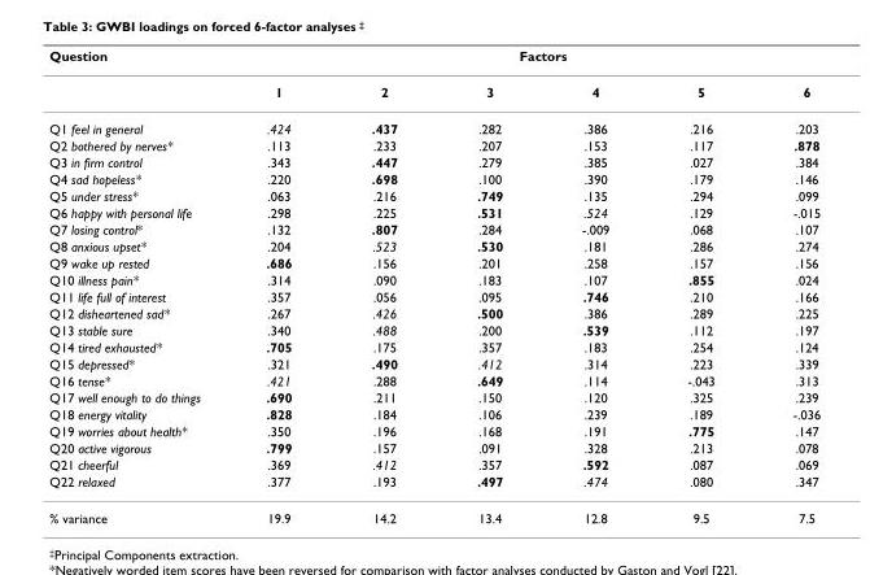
<table><thead><tr><td rowspan="2">Question</td><td colspan="6">Factors</td></tr><tr><td>1</td><td>2</td><td>3</td><td>4</td><td>5</td><td>6</td></tr></thead><tbody><tr><td>Q1 feel in general</td><td>.424</td><td>.437</td><td>.282</td><td>.386</td><td>.216</td><td>.203</td></tr><tr><td>Q2 bothered by nerves*</td><td>.113</td><td>.233</td><td>.207</td><td>.153</td><td>.117</td><td>.878</td></tr><tr><td>Q3 in firm control</td><td>.343</td><td>.447</td><td>.279</td><td>.385</td><td>.027</td><td>.384</td></tr><tr><td>Q4 sad hopeless*</td><td>.220</td><td>.698</td><td>.100</td><td>.390</td><td>.179</td><td>.146</td></tr><tr><td>Q5 under stress*</td><td>.063</td><td>.216</td><td>.749</td><td>.135</td><td>.294</td><td>.099</td></tr><tr><td>Q6 happy with personal life</td><td>.298</td><td>.225</td><td>.531</td><td>.524</td><td>.129</td><td>-.015</td></tr><tr><td>Q7 losing control*</td><td>.132</td><td>.807</td><td>.284</td><td>-.009</td><td>.068</td><td>.107</td></tr><tr><td>Q8 anxious upset*</td><td>.204</td><td>.523</td><td>.530</td><td>.181</td><td>.286</td><td>.274</td></tr><tr><td>Q9 wake up rested</td><td>.686</td><td>.156</td><td>.201</td><td>.258</td><td>.157</td><td>.156</td></tr><tr><td>Q10 illness pain*</td><td>.314</td><td>.090</td><td>.183</td><td>.107</td><td>.855</td><td>.024</td></tr><tr><td>Q11 life full of interest</td><td>.357</td><td>.056</td><td>.095</td><td>.746</td><td>.210</td><td>.166</td></tr><tr><td>Q12 disheartened sad*</td><td>.267</td><td>.426</td><td>.500</td><td>.386</td><td>.289</td><td>.225</td></tr><tr><td>Q13 stable sure</td><td>.340</td><td>.488</td><td>.200</td><td>.539</td><td>.112</td><td>.197</td></tr><tr><td>Q14 tired exhausted*</td><td>.705</td><td>.175</td><td>.357</td><td>.183</td><td>.254</td><td>.124</td></tr><tr><td>Q15 depressed*</td><td>.321</td><td>.490</td><td>.412</td><td>.314</td><td>.223</td><td>.339</td></tr><tr><td>Q16 tense*</td><td>.421</td><td>.288</td><td>.649</td><td>.114</td><td>-.043</td><td>.313</td></tr><tr><td>Q17 well enough to do things</td><td>.690</td><td>.211</td><td>.150</td><td>.120</td><td>.325</td><td>.239</td></tr><tr><td>Q18 energy vitality</td><td>.828</td><td>.184</td><td>.106</td><td>.239</td><td>.189</td><td>-.036</td></tr><tr><td>Q19 worries about health*</td><td>.350</td><td>.196</td><td>.168</td><td>.191</td><td>.775</td><td>.147</td></tr><tr><td>Q20 active vigorous</td><td>.799</td><td>.157</td><td>.091</td><td>.328</td><td>.213</td><td>.078</td></tr><tr><td>Q21 cheerful</td><td>.369</td><td>.412</td><td>.357</td><td>.592</td><td>.087</td><td>.069</td></tr><tr><td>Q22 relaxed</td><td>.377</td><td>.193</td><td>.497</td><td>.474</td><td>.080</td><td>.347</td></tr><tr><td>% variance</td><td>19.9</td><td>14.2</td><td>13.4</td><td>12.8</td><td>9.5</td><td>7.5</td></tr></tbody></table>